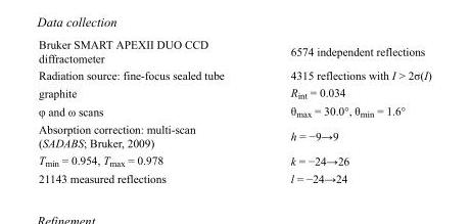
<table><tbody><tr><td>Bruker SMART APEXII DUO CCD diffractometer</td><td>6574 independent reflections</td></tr><tr><td>Radiation source: fine-focus sealed tube</td><td>4315 reflections with I &gt; 2σ(I)</td></tr><tr><td>graphite</td><td>R<sub>int</sub> = 0.034</td></tr><tr><td>φ and ω scans</td><td>θ<sub>max</sub> = 30.0°, θ<sub>min</sub> = 1.6°</td></tr><tr><td>Absorption correction: multi-scan (SADABS; Bruker, 2009)</td><td>h = −9→9</td></tr><tr><td>T<sub>min</sub> = 0.954, T<sub>max</sub> = 0.978</td><td>k = −24→26</td></tr><tr><td>21143 measured reflections</td><td>l = −24→24</td></tr></tbody></table>